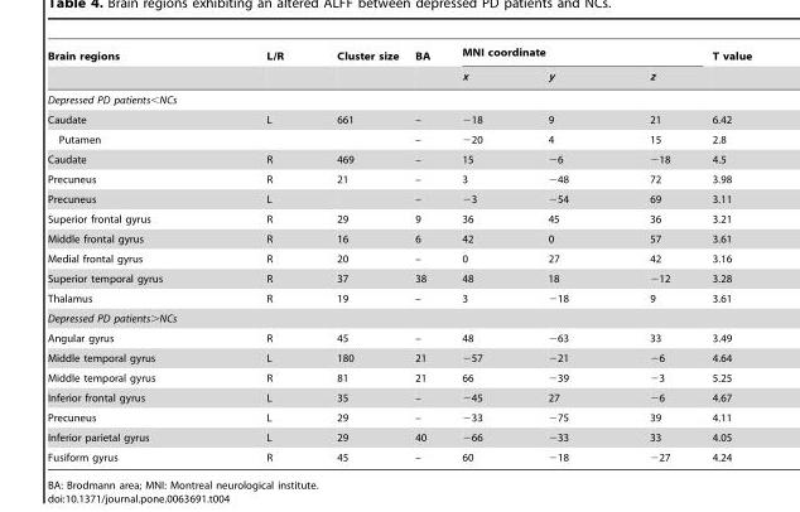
<table><thead><tr><td rowspan="2">Brain regions</td><td rowspan="2">L/R</td><td rowspan="2">Cluster size</td><td rowspan="2">BA</td><td colspan="3">MNI coordinate</td><td rowspan="2">T value</td></tr><tr><td>x</td><td>y</td><td>z</td></tr></thead><tbody><tr><td colspan="8">Depressed PD patients&lt;NCs</td></tr><tr><td>Caudate</td><td>L</td><td>661</td><td>–</td><td>−18</td><td>9</td><td>21</td><td>6.42</td></tr><tr><td>Putamen</td><td></td><td></td><td>–</td><td>−20</td><td>4</td><td>15</td><td>2.8</td></tr><tr><td>Caudate</td><td>R</td><td>469</td><td>–</td><td>15</td><td>−6</td><td>−18</td><td>4.5</td></tr><tr><td>Precuneus</td><td>R</td><td>21</td><td>–</td><td>3</td><td>−48</td><td>72</td><td>3.98</td></tr><tr><td>Precuneus</td><td>L</td><td></td><td>–</td><td>−3</td><td>−54</td><td>69</td><td>3.11</td></tr><tr><td>Superior frontal gyrus</td><td>R</td><td>29</td><td>9</td><td>36</td><td>45</td><td>36</td><td>3.21</td></tr><tr><td>Middle frontal gyrus</td><td>R</td><td>16</td><td>6</td><td>42</td><td>0</td><td>57</td><td>3.61</td></tr><tr><td>Medial frontal gyrus</td><td>R</td><td>20</td><td>–</td><td>0</td><td>27</td><td>42</td><td>3.16</td></tr><tr><td>Superior temporal gyrus</td><td>R</td><td>37</td><td>38</td><td>48</td><td>18</td><td>−12</td><td>3.28</td></tr><tr><td>Thalamus</td><td>R</td><td>19</td><td>–</td><td>3</td><td>−18</td><td>9</td><td>3.61</td></tr><tr><td colspan="8">Depressed PD patients&gt;NCs</td></tr><tr><td>Angular gyrus</td><td>R</td><td>45</td><td>–</td><td>48</td><td>−63</td><td>33</td><td>3.49</td></tr><tr><td>Middle temporal gyrus</td><td>L</td><td>180</td><td>21</td><td>−57</td><td>−21</td><td>−6</td><td>4.64</td></tr><tr><td>Middle temporal gyrus</td><td>R</td><td>81</td><td>21</td><td>66</td><td>−39</td><td>−3</td><td>5.25</td></tr><tr><td>Inferior frontal gyrus</td><td>L</td><td>35</td><td>–</td><td>−45</td><td>27</td><td>−6</td><td>4.67</td></tr><tr><td>Precuneus</td><td>L</td><td>29</td><td>–</td><td>−33</td><td>−75</td><td>39</td><td>4.11</td></tr><tr><td>Inferior parietal gyrus</td><td>L</td><td>29</td><td>40</td><td>−66</td><td>−33</td><td>33</td><td>4.05</td></tr><tr><td>Fusiform gyrus</td><td>R</td><td>45</td><td>–</td><td>60</td><td>−18</td><td>−27</td><td>4.24</td></tr></tbody></table>